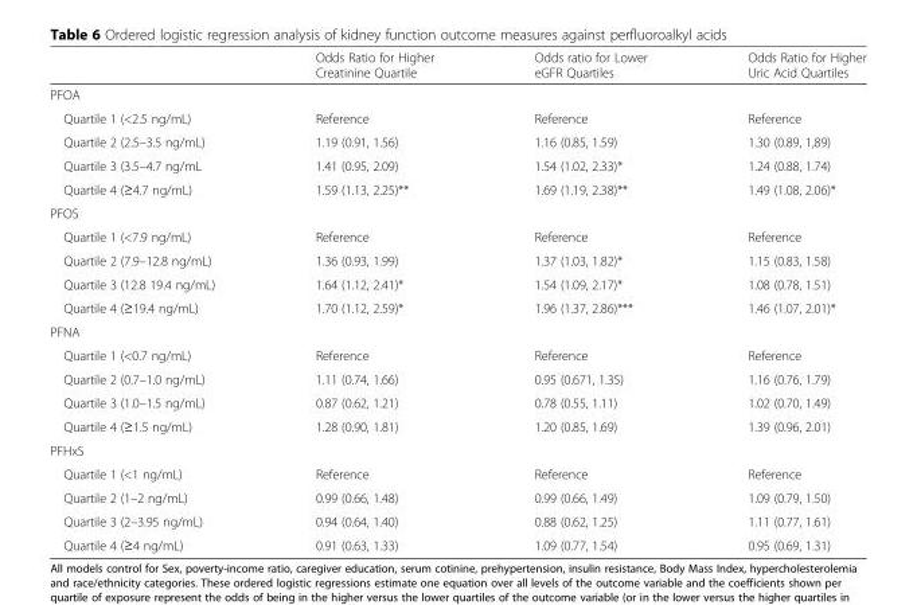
<table><thead><tr><td></td><td>Odds Ratio for Higher Creatinine Quartile</td><td>Odds ratio for Lower eGFR Quartiles</td><td>Odds Ratio for Higher Uric Acid Quartiles</td></tr></thead><tbody><tr><td colspan="4">PFOA</td></tr><tr><td>Quartile 1 (&lt;2.5 ng/mL)</td><td>Reference</td><td>Reference</td><td>Reference</td></tr><tr><td>Quartile 2 (2.5–3.5 ng/mL)</td><td>1.19 (0.91, 1.56)</td><td>1.16 (0.85, 1.59)</td><td>1.30 (0.89, 1,89)</td></tr><tr><td>Quartile 3 (3.5–4.7 ng/mL</td><td>1.41 (0.95, 2.09)</td><td>1.54 (1.02, 2.33)*</td><td>1.24 (0.88, 1.74)</td></tr><tr><td>Quartile 4 (≥4.7 ng/mL)</td><td>1.59 (1.13, 2.25)**</td><td>1.69 (1.19, 2.38)**</td><td>1.49 (1.08, 2.06)*</td></tr><tr><td colspan="4">PFOS</td></tr><tr><td>Quartile 1 (&lt;7.9 ng/mL)</td><td>Reference</td><td>Reference</td><td>Reference</td></tr><tr><td>Quartile 2 (7.9–12.8 ng/mL)</td><td>1.36 (0.93, 1.99)</td><td>1.37 (1.03, 1.82)*</td><td>1.15 (0.83, 1.58)</td></tr><tr><td>Quartile 3 (12.8 19.4 ng/mL)</td><td>1.64 (1.12, 2.41)*</td><td>1.54 (1.09, 2.17)*</td><td>1.08 (0.78, 1.51)</td></tr><tr><td>Quartile 4 (≥19.4 ng/mL)</td><td>1.70 (1.12, 2.59)*</td><td>1.96 (1.37, 2.86)***</td><td>1.46 (1.07, 2.01)*</td></tr><tr><td colspan="4">PFNA</td></tr><tr><td>Quartile 1 (&lt;0.7 ng/mL)</td><td>Reference</td><td>Reference</td><td>Reference</td></tr><tr><td>Quartile 2 (0.7–1.0 ng/mL)</td><td>1.11 (0.74, 1.66)</td><td>0.95 (0.671, 1.35)</td><td>1.16 (0.76, 1.79)</td></tr><tr><td>Quartile 3 (1.0–1.5 ng/mL)</td><td>0.87 (0.62, 1.21)</td><td>0.78 (0.55, 1.11)</td><td>1.02 (0.70, 1.49)</td></tr><tr><td>Quartile 4 (≥1.5 ng/mL)</td><td>1.28 (0.90, 1.81)</td><td>1.20 (0.85, 1.69)</td><td>1.39 (0.96, 2.01)</td></tr><tr><td colspan="4">PFHxS</td></tr><tr><td>Quartile 1 (&lt;1 ng/mL)</td><td>Reference</td><td>Reference</td><td>Reference</td></tr><tr><td>Quartile 2 (1–2 ng/mL)</td><td>0.99 (0.66, 1.48)</td><td>0.99 (0.66, 1.49)</td><td>1.09 (0.79, 1.50)</td></tr><tr><td>Quartile 3 (2–3.95 ng/mL)</td><td>0.94 (0.64, 1.40)</td><td>0.88 (0.62, 1.25)</td><td>1.11 (0.77, 1.61)</td></tr><tr><td>Quartile 4 (≥4 ng/mL)</td><td>0.91 (0.63, 1.33)</td><td>1.09 (0.77, 1.54)</td><td>0.95 (0.69, 1.31)</td></tr></tbody></table>